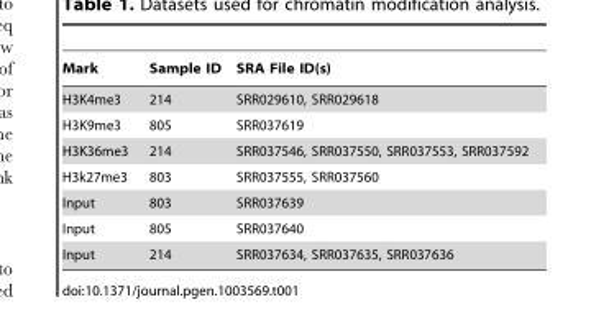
<table><thead><tr><td>Mark</td><td>Sample ID</td><td>SRA File ID(s)</td></tr></thead><tbody><tr><td>H3K4me3</td><td>214</td><td>SRR029610, SRR029618</td></tr><tr><td>H3K9me3</td><td>805</td><td>SRR037619</td></tr><tr><td>H3K36me3</td><td>214</td><td>SRR037546, SRR037550, SRR037553, SRR037592</td></tr><tr><td>H3k27me3</td><td>803</td><td>SRR037555, SRR037560</td></tr><tr><td>Input</td><td>803</td><td>SRR037639</td></tr><tr><td>Input</td><td>805</td><td>SRR037640</td></tr><tr><td>Input</td><td>214</td><td>SRR037634, SRR037635, SRR037636</td></tr></tbody></table>